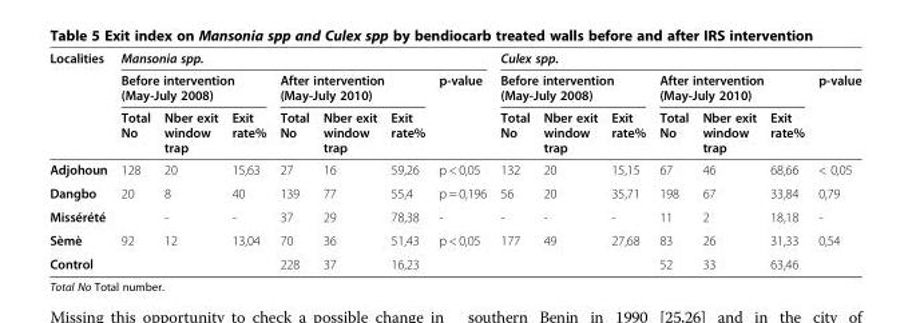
<table><thead><tr><td rowspan="3">Localities</td><td colspan="7">Mansonia spp.</td><td colspan="7">Culex spp.</td></tr><tr><td colspan="3">Before intervention (May-July 2008)</td><td colspan="3">After intervention (May-July 2010)</td><td rowspan="2">p-value</td><td colspan="3">Before intervention (May-July 2008)</td><td colspan="3">After intervention (May-July 2010)</td><td rowspan="2">p-value</td></tr><tr><td>Total No</td><td>Nber exit window trap</td><td>Exit rate%</td><td>Total No</td><td>Nber exit window trap</td><td>Exit rate%</td><td>Total No</td><td>Nber exit window trap</td><td>Exit rate%</td><td>Total No</td><td>Nber exit window trap</td><td>Exit rate%</td></tr></thead><tbody><tr><td>Adjohoun</td><td>128</td><td>20</td><td>15,63</td><td>27</td><td>16</td><td>59,26</td><td>p &lt; 0,05</td><td>132</td><td>20</td><td>15,15</td><td>67</td><td>46</td><td>68,66</td><td>&lt; 0,05</td></tr><tr><td>Dangbo</td><td>20</td><td>8</td><td>40</td><td>139</td><td>77</td><td>55,4</td><td>p = 0,196</td><td>56</td><td>20</td><td>35,71</td><td>198</td><td>67</td><td>33,84</td><td>0,79</td></tr><tr><td colspan="2">Missérété</td><td>-</td><td>-</td><td>37</td><td>29</td><td>78,38</td><td>-</td><td>-</td><td>-</td><td>-</td><td>11</td><td>2</td><td>18,18</td><td>-</td></tr><tr><td>Sèmè</td><td>92</td><td>12</td><td>13,04</td><td>70</td><td>36</td><td>51,43</td><td>p &lt; 0,05</td><td>177</td><td>49</td><td>27,68</td><td>83</td><td>26</td><td>31,33</td><td>0,54</td></tr><tr><td colspan="2">Control</td><td></td><td></td><td>228</td><td>37</td><td>16,23</td><td></td><td></td><td></td><td></td><td>52</td><td>33</td><td>63,46</td><td></td></tr></tbody></table>